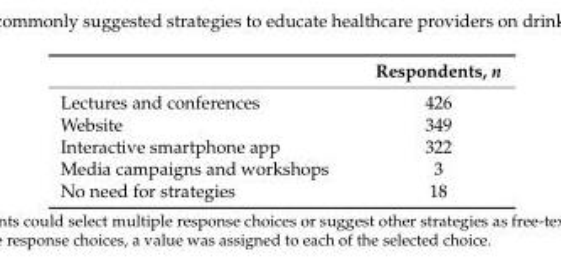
<table><thead><tr><td></td><td>Respondents, n</td></tr></thead><tbody><tr><td>Lectures and conferences</td><td>426</td></tr><tr><td>Website</td><td>349</td></tr><tr><td>Interactive smartphone app</td><td>322</td></tr><tr><td>Media campaigns and workshops</td><td>3</td></tr><tr><td>No need for strategies</td><td>18</td></tr></tbody></table>